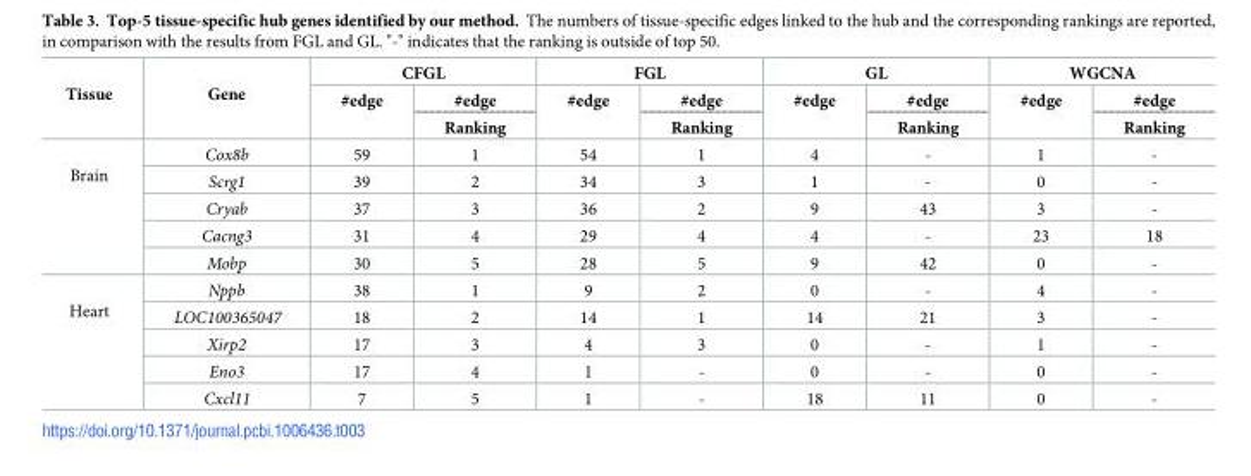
<table><thead><tr><td rowspan="3">Tissue</td><td rowspan="3">Gene</td><td colspan="2">CFGL</td><td colspan="2">FGL</td><td colspan="2">GL</td><td colspan="2">WGCNA</td></tr><tr><td rowspan="2">#edge</td><td rowspan="2">#edge Ranking</td><td rowspan="2">#edge</td><td rowspan="2">#edge Ranking</td><td rowspan="2">#edge</td><td rowspan="2">#edge Ranking</td><td rowspan="2">#edge</td><td rowspan="2">#edge Ranking</td></tr><tr></tr></thead><tbody><tr><td rowspan="5">Brain</td><td>Cox8b</td><td>59</td><td>1</td><td>54</td><td>1</td><td>4</td><td>-</td><td>1</td><td>-</td></tr><tr><td>Scrg1</td><td>39</td><td>2</td><td>34</td><td>3</td><td>1</td><td>-</td><td>0</td><td>-</td></tr><tr><td>Cryab</td><td>37</td><td>3</td><td>36</td><td>2</td><td>9</td><td>43</td><td>3</td><td>-</td></tr><tr><td>Cacng3</td><td>31</td><td>4</td><td>29</td><td>4</td><td>4</td><td>-</td><td>23</td><td>18</td></tr><tr><td>Mobp</td><td>30</td><td>5</td><td>28</td><td>5</td><td>9</td><td>42</td><td>0</td><td>-</td></tr><tr><td rowspan="5">Heart</td><td>Nppb</td><td>38</td><td>1</td><td>9</td><td>2</td><td>0</td><td>-</td><td>4</td><td>-</td></tr><tr><td>LOC100365047</td><td>18</td><td>2</td><td>14</td><td>1</td><td>14</td><td>21</td><td>3</td><td>-</td></tr><tr><td>Xirp2</td><td>17</td><td>3</td><td>4</td><td>3</td><td>0</td><td>-</td><td>1</td><td>-</td></tr><tr><td>Eno3</td><td>17</td><td>4</td><td>1</td><td>-</td><td>0</td><td>-</td><td>0</td><td>-</td></tr><tr><td>Cxcl11</td><td>7</td><td>5</td><td>1</td><td>-</td><td>18</td><td>11</td><td>0</td><td>-</td></tr></tbody></table>